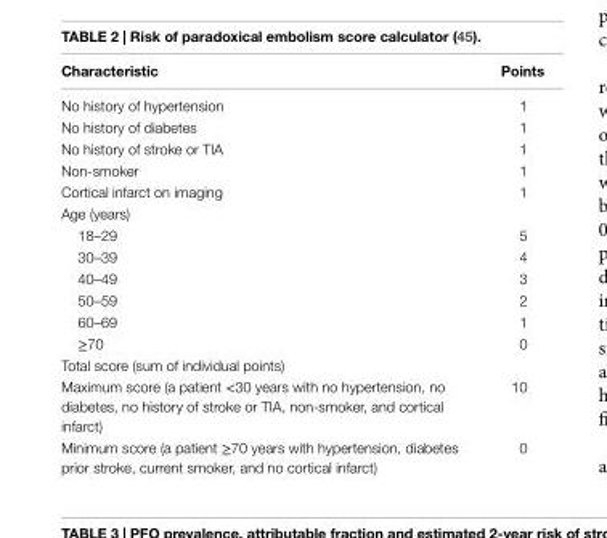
<table><thead><tr><td>Characteristic</td><td>Points</td></tr></thead><tbody><tr><td>No history of hypertension</td><td>1</td></tr><tr><td>No history of diabetes</td><td>1</td></tr><tr><td>No history of stroke or TIA</td><td>1</td></tr><tr><td>Non-smoker</td><td>1</td></tr><tr><td>Cortical infarct on imaging</td><td>1</td></tr><tr><td colspan="2">Age (years)</td></tr><tr><td>18–29</td><td>5</td></tr><tr><td>30–39</td><td>4</td></tr><tr><td>40–49</td><td>3</td></tr><tr><td>50–59</td><td>2</td></tr><tr><td>60–69</td><td>1</td></tr><tr><td>≥70</td><td>0</td></tr><tr><td colspan="2">Total score (sum of individual points)</td></tr><tr><td>Maximum score (a patient &lt;30 years with no hypertension, no diabetes, no history of stroke or TIA, non-smoker, and cortical infarct)</td><td>10</td></tr><tr><td>Minimum score (a patient ≥70 years with hypertension, diabetes prior stroke, current smoker, and no cortical infarct)</td><td>0</td></tr></tbody></table>